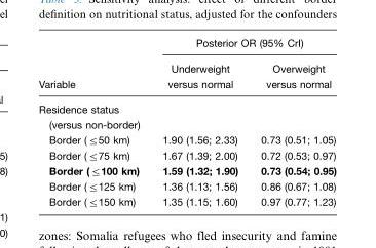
<table><thead><tr><td rowspan="2">Variable</td><td colspan="2">Posterior OR (95% CrI)</td></tr><tr><td>Underweight versus normal</td><td>Overweight versus normal</td></tr></thead><tbody><tr><td colspan="3">Residence status (versus non-border)</td></tr><tr><td>Border (≤50 km)</td><td>1.90 (1.56; 2.33)</td><td>0.73 (0.51; 1.05)</td></tr><tr><td>Border (≤75 km)</td><td>1.67 (1.39; 2.00)</td><td>0.72 (0.53; 0.97)</td></tr><tr><td>Border (≤100 km)</td><td>1.59 (1.32; 1.90)</td><td>0.73 (0.54; 0.95)</td></tr><tr><td>Border (≤125 km)</td><td>1.36 (1.13; 1.56)</td><td>0.86 (0.67; 1.08)</td></tr><tr><td>Border (≤150 km)</td><td>1.35 (1.15; 1.60)</td><td>0.97 (0.77; 1.23)</td></tr></tbody></table>